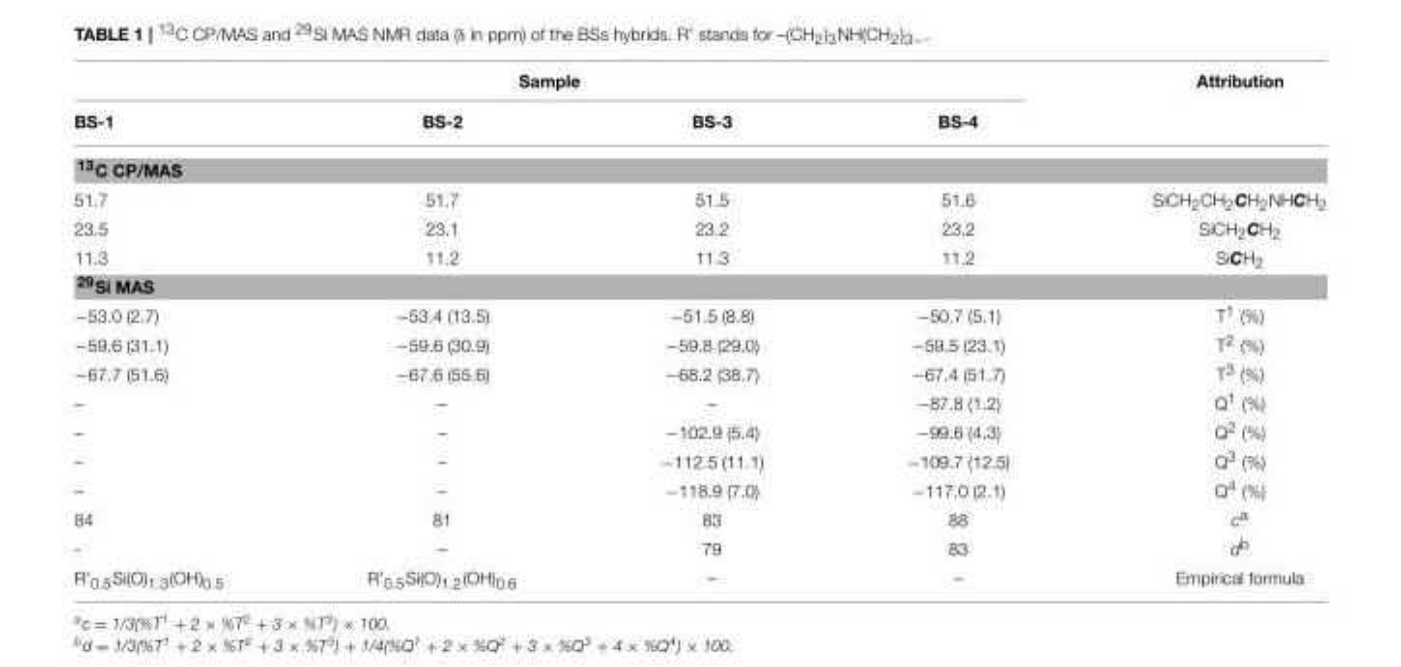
<table><thead><tr><td colspan="4">Sample</td><td rowspan="2">Attribution</td></tr><tr><td>BS-1</td><td>BS-2</td><td>BS-3</td><td>BS-4</td></tr></thead><tbody><tr><td colspan="5"><sup>13</sup>C CP/MAS</td></tr><tr><td>51.7</td><td>51.7</td><td>51.5</td><td>51.6</td><td>SiCH<sub>2</sub>CH<sub>2</sub>CH<sub>2</sub>NHCH<sub>2</sub></td></tr><tr><td>23.5</td><td>23.1</td><td>23.2</td><td>23.2</td><td>SiCH<sub>2</sub>CH<sub>2</sub></td></tr><tr><td>11.3</td><td>11.2</td><td>11.3</td><td>11.2</td><td>SiCH<sub>2</sub></td></tr><tr><td colspan="5"><sup>29</sup>Si MAS</td></tr><tr><td>−53.0 (2.7)</td><td>−53.4 (13.5)</td><td>−51.5 (8.8)</td><td>−50.7 (5.1)</td><td>T<sup>1</sup> (%)</td></tr><tr><td>−59.6 (31.1)</td><td>−59.6 (30.9)</td><td>−59.8 (29.0)</td><td>−59.5 (23.1)</td><td>T<sup>2</sup> (%)</td></tr><tr><td>−67.7 (51.6)</td><td>−67.6 (55.6)</td><td>−68.2 (38.7)</td><td>−67.4 (51.7)</td><td>T<sup>3</sup> (%)</td></tr><tr><td>–</td><td>–</td><td>–</td><td>−87.8 (1.2)</td><td>Q<sup>1</sup> (%)</td></tr><tr><td>–</td><td>–</td><td>−102.9 (5.4)</td><td>−99.6 (4.3)</td><td>Q<sup>2</sup> (%)</td></tr><tr><td>–</td><td>–</td><td>−112.5 (11.1)</td><td>−109.7 (12.5)</td><td>Q<sup>3</sup> (%)</td></tr><tr><td>–</td><td>–</td><td>−118.9 (7.0)</td><td>−117.0 (2.1)</td><td>Q<sup>4</sup> (%)</td></tr><tr><td>84</td><td>81</td><td>83</td><td>88</td><td>c<sup>a</sup></td></tr><tr><td>-</td><td>–</td><td>79</td><td>83</td><td>d<sup>b</sup></td></tr><tr><td>R’<sub>0.5</sub>Si(O)<sub>1.3</sub>(OH)<sub>0.5</sub></td><td>R’<sub>0.5</sub>Si(O)<sub>1.2</sub>(OH)<sub>0.6</sub></td><td>–</td><td>–</td><td>Empirical formula</td></tr></tbody></table>